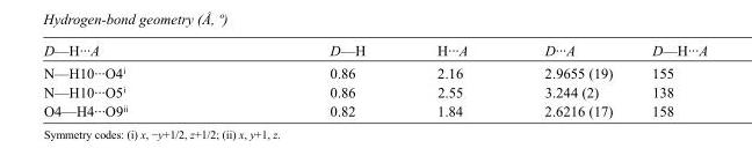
<table><tbody><tr><td>D—H···A</td><td>D—H</td><td>H···A</td><td>D···A</td><td>D—H···A</td></tr><tr><td>N—H10···O4<sup>i</sup></td><td>0.86</td><td>2.16</td><td>2.9655 (19)</td><td>155</td></tr><tr><td>N—H10···O5<sup>i</sup></td><td>0.86</td><td>2.55</td><td>3.244 (2)</td><td>138</td></tr><tr><td>O4—H4···O9<sup>ii</sup></td><td>0.82</td><td>1.84</td><td>2.6216 (17)</td><td>158</td></tr></tbody></table>